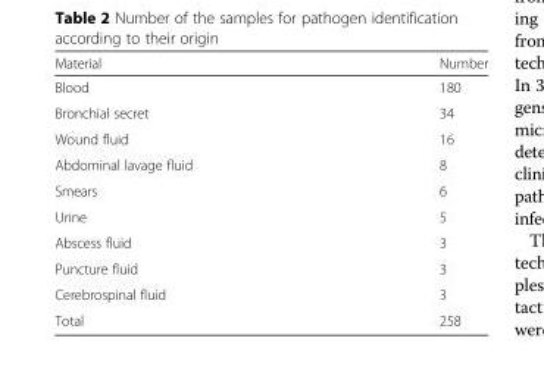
<table><thead><tr><td>Material</td><td>Number</td></tr></thead><tbody><tr><td>Blood</td><td>180</td></tr><tr><td>Bronchial secret</td><td>34</td></tr><tr><td>Wound fluid</td><td>16</td></tr><tr><td>Abdominal lavage fluid</td><td>8</td></tr><tr><td>Smears</td><td>6</td></tr><tr><td>Urine</td><td>5</td></tr><tr><td>Abscess fluid</td><td>3</td></tr><tr><td>Puncture fluid</td><td>3</td></tr><tr><td>Cerebrospinal fluid</td><td>3</td></tr><tr><td>Total</td><td>258</td></tr></tbody></table>